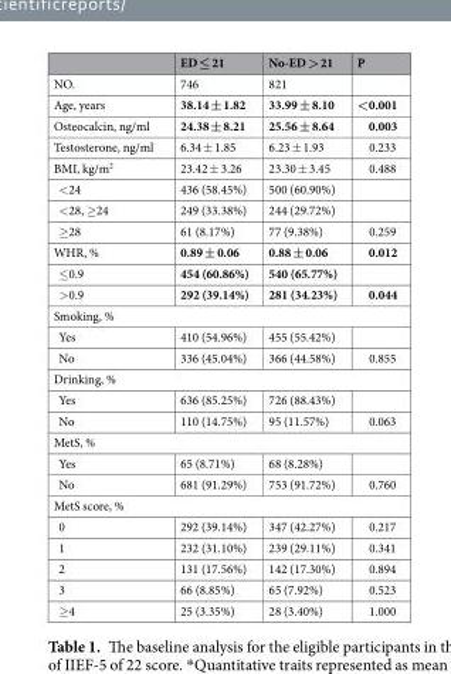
<table><thead><tr><td></td><td>ED ≤ 21</td><td>No-ED &gt; 21</td><td>P</td></tr></thead><tbody><tr><td>NO.</td><td>746</td><td>821</td><td></td></tr><tr><td>Age, years</td><td>38.14 ± 1.82</td><td>33.99 ± 8.10</td><td>&lt;0.001</td></tr><tr><td>Osteocalcin, ng/ml</td><td>24.38 ± 8.21</td><td>25.56 ± 8.64</td><td>0.003</td></tr><tr><td>Testosterone, ng/ml</td><td>6.34 ± 1.85</td><td>6.23 ± 1.93</td><td>0.233</td></tr><tr><td>BMI, kg/m<sup>2</sup></td><td>23.42 ± 3.26</td><td>23.30 ± 3.45</td><td>0.488</td></tr><tr><td>&lt;24</td><td>436 (58.45%)</td><td>500 (60.90%)</td><td></td></tr><tr><td>&lt;28, ≥24</td><td>249 (33.38%)</td><td>244 (29.72%)</td><td></td></tr><tr><td>≥28</td><td>61 (8.17%)</td><td>77 (9.38%)</td><td>0.259</td></tr><tr><td>WHR, %</td><td>0.89 ± 0.06</td><td>0.88 ± 0.06</td><td>0.012</td></tr><tr><td>≤0.9</td><td>454 (60.86%)</td><td>540 (65.77%)</td><td></td></tr><tr><td>&gt;0.9</td><td>292 (39.14%)</td><td>281 (34.23%)</td><td>0.044</td></tr><tr><td colspan="4">Smoking, %</td></tr><tr><td>Yes</td><td>410 (54.96%)</td><td>455 (55.42%)</td><td></td></tr><tr><td>No</td><td>336 (45.04%)</td><td>366 (44.58%)</td><td>0.855</td></tr><tr><td colspan="4">Drinking, %</td></tr><tr><td>Yes</td><td>636 (85.25%)</td><td>726 (88.43%)</td><td></td></tr><tr><td>No</td><td>110 (14.75%)</td><td>95 (11.57%)</td><td>0.063</td></tr><tr><td colspan="4">MetS, %</td></tr><tr><td>Yes</td><td>65 (8.71%)</td><td>68 (8.28%)</td><td></td></tr><tr><td>No</td><td>681 (91.29%)</td><td>753 (91.72%)</td><td>0.760</td></tr><tr><td colspan="4">MetS score, %</td></tr><tr><td>0</td><td>292 (39.14%)</td><td>347 (42.27%)</td><td>0.217</td></tr><tr><td>1</td><td>232 (31.10%)</td><td>239 (29.11%)</td><td>0.341</td></tr><tr><td>2</td><td>131 (17.56%)</td><td>142 (17.30%)</td><td>0.894</td></tr><tr><td>3</td><td>66 (8.85%)</td><td>65 (7.92%)</td><td>0.523</td></tr><tr><td>≥4</td><td>25 (3.35%)</td><td>28 (3.40%)</td><td>1.000</td></tr></tbody></table>